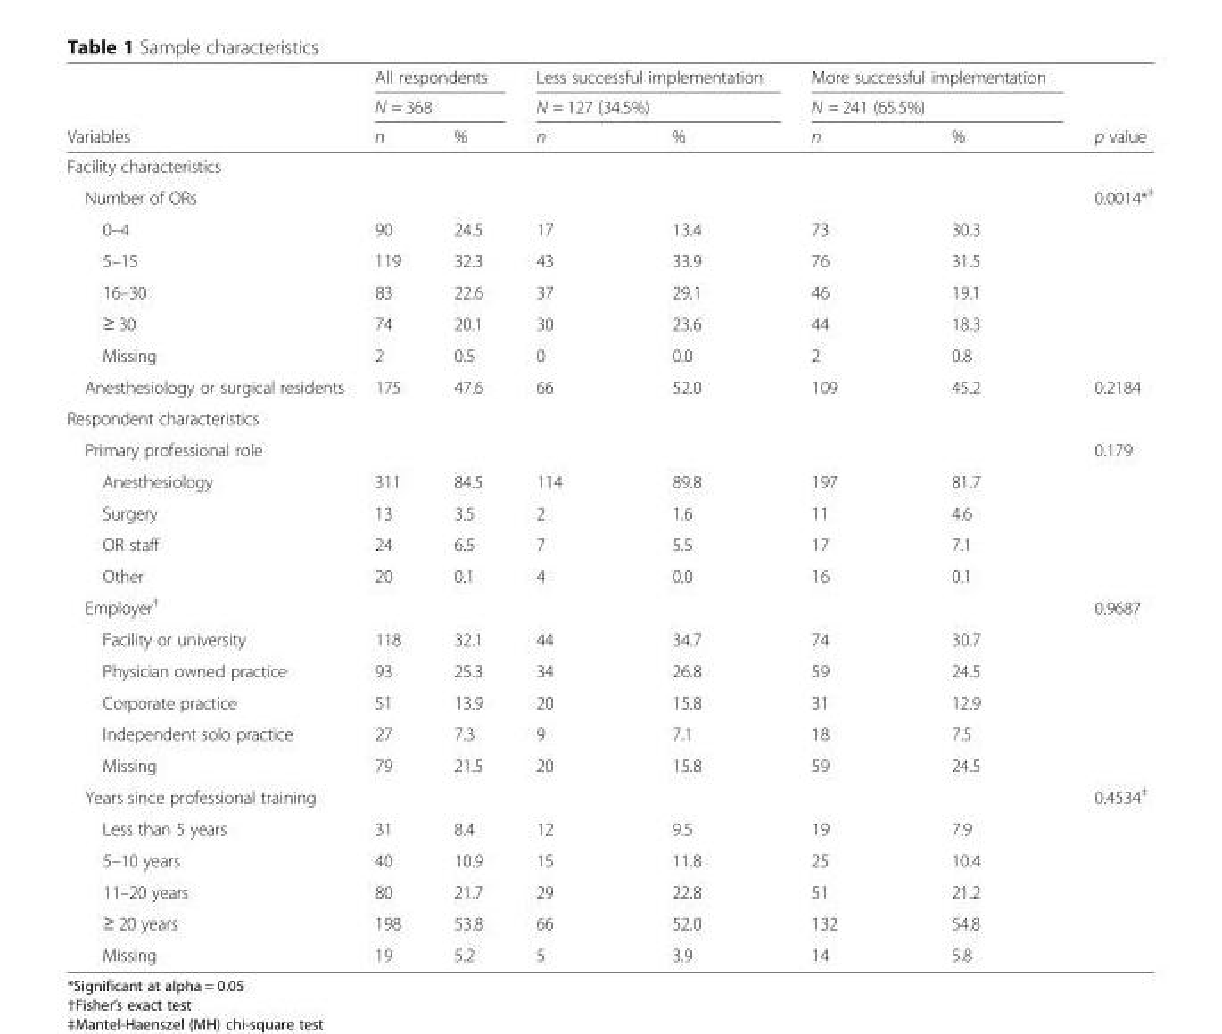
<table><thead><tr><td rowspan="3">Variables</td><td rowspan="2" colspan="2">All respondents N = 368</td><td rowspan="2" colspan="2">Less successful implementation N = 127 (34.5%)</td><td rowspan="2" colspan="2">More successful implementation N = 241 (65.5%)</td><td rowspan="3">p value</td></tr><tr></tr><tr><td>n</td><td>%</td><td>n</td><td>%</td><td>n</td><td>%</td></tr></thead><tbody><tr><td colspan="8">Facility characteristics</td></tr><tr><td>Number of ORs</td><td></td><td></td><td></td><td></td><td></td><td></td><td>0.0014*<sup>‡</sup></td></tr><tr><td>0–4</td><td>90</td><td>24.5</td><td>17</td><td>13.4</td><td>73</td><td>30.3</td><td></td></tr><tr><td>5–15</td><td>119</td><td>32.3</td><td>43</td><td>33.9</td><td>76</td><td>31.5</td><td></td></tr><tr><td>16–30</td><td>83</td><td>22.6</td><td>37</td><td>29.1</td><td>46</td><td>19.1</td><td></td></tr><tr><td>≥ 30</td><td>74</td><td>20.1</td><td>30</td><td>23.6</td><td>44</td><td>18.3</td><td></td></tr><tr><td>Missing</td><td>2</td><td>0.5</td><td>0</td><td>0.0</td><td>2</td><td>0.8</td><td></td></tr><tr><td>Anesthesiology or surgical residents</td><td>175</td><td>47.6</td><td>66</td><td>52.0</td><td>109</td><td>45.2</td><td>0.2184</td></tr><tr><td colspan="8">Respondent characteristics</td></tr><tr><td>Primary professional role</td><td></td><td></td><td></td><td></td><td></td><td></td><td>0.179</td></tr><tr><td>Anesthesiology</td><td>311</td><td>84.5</td><td>114</td><td>89.8</td><td>197</td><td>81.7</td><td></td></tr><tr><td>Surgery</td><td>13</td><td>3.5</td><td>2</td><td>1.6</td><td>11</td><td>4.6</td><td></td></tr><tr><td>OR staff</td><td>24</td><td>6.5</td><td>7</td><td>5.5</td><td>17</td><td>7.1</td><td></td></tr><tr><td>Other</td><td>20</td><td>0.1</td><td>4</td><td>0.0</td><td>16</td><td>0.1</td><td></td></tr><tr><td>Employer<sup>†</sup></td><td></td><td></td><td></td><td></td><td></td><td></td><td>0.9687</td></tr><tr><td>Facility or university</td><td>118</td><td>32.1</td><td>44</td><td>34.7</td><td>74</td><td>30.7</td><td></td></tr><tr><td>Physician owned practice</td><td>93</td><td>25.3</td><td>34</td><td>26.8</td><td>59</td><td>24.5</td><td></td></tr><tr><td>Corporate practice</td><td>51</td><td>13.9</td><td>20</td><td>15.8</td><td>31</td><td>12.9</td><td></td></tr><tr><td>Independent solo practice</td><td>27</td><td>7.3</td><td>9</td><td>7.1</td><td>18</td><td>7.5</td><td></td></tr><tr><td>Missing</td><td>79</td><td>21.5</td><td>20</td><td>15.8</td><td>59</td><td>24.5</td><td></td></tr><tr><td>Years since professional training</td><td></td><td></td><td></td><td></td><td></td><td></td><td>0.4534<sup>‡</sup></td></tr><tr><td>Less than 5 years</td><td>31</td><td>8.4</td><td>12</td><td>9.5</td><td>19</td><td>7.9</td><td></td></tr><tr><td>5–10 years</td><td>40</td><td>10.9</td><td>15</td><td>11.8</td><td>25</td><td>10.4</td><td></td></tr><tr><td>11–20 years</td><td>80</td><td>21.7</td><td>29</td><td>22.8</td><td>51</td><td>21.2</td><td></td></tr><tr><td>≥ 20 years</td><td>198</td><td>53.8</td><td>66</td><td>52.0</td><td>132</td><td>54.8</td><td></td></tr><tr><td>Missing</td><td>19</td><td>5.2</td><td>5</td><td>3.9</td><td>14</td><td>5.8</td><td></td></tr></tbody></table>